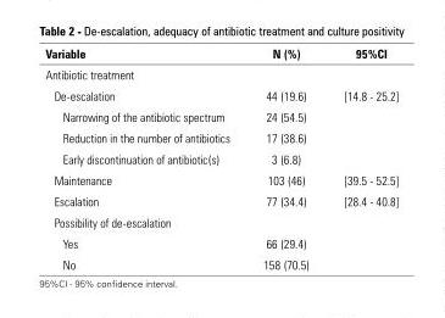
<table><thead><tr><td>Variable</td><td>N (%)</td><td>95%CI</td></tr></thead><tbody><tr><td colspan="3">Antibiotic treatment</td></tr><tr><td>De-escalation</td><td>44 (19.6)</td><td>[14.8 - 25.2]</td></tr><tr><td>Narrowing of the antibiotic spectrum</td><td>24 (54.5)</td><td></td></tr><tr><td>Reduction in the number of antibiotics</td><td>17 (38.6)</td><td></td></tr><tr><td>Early discontinuation of antibiotic(s)</td><td>3 (6.8)</td><td></td></tr><tr><td>Maintenance</td><td>103 (46)</td><td>[39.5 - 52.5]</td></tr><tr><td>Escalation</td><td>77 (34.4)</td><td>[28.4 - 40.8]</td></tr><tr><td colspan="3">Possibility of de-escalation</td></tr><tr><td>Yes</td><td>66 (29.4)</td><td></td></tr><tr><td>No</td><td>158 (70.5)</td><td></td></tr></tbody></table>